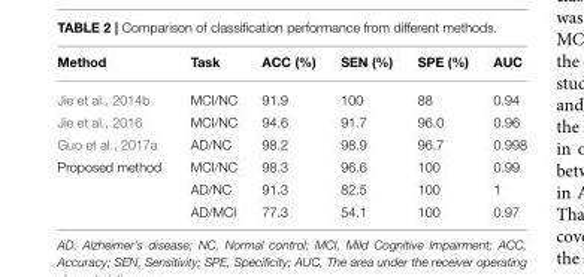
<table><thead><tr><td>Method</td><td>Task</td><td>ACC (%)</td><td>SEN (%)</td><td>SPE (%)</td><td>AUC</td></tr></thead><tbody><tr><td>Jie et al., 2014b</td><td>MCI/NC</td><td>91.9</td><td>100</td><td>88</td><td>0.94</td></tr><tr><td>Jie et al., 2016</td><td>MCI/NC</td><td>94.6</td><td>91.7</td><td>96.0</td><td>0.96</td></tr><tr><td>Guo et al., 2017a</td><td>AD/NC</td><td>98.2</td><td>98.9</td><td>96.7</td><td>0.998</td></tr><tr><td rowspan="3">Proposed method</td><td>MCI/NC</td><td>98.3</td><td>96.6</td><td>100</td><td>0.99</td></tr><tr><td>AD/NC</td><td>91.3</td><td>82.5</td><td>100</td><td>1</td></tr><tr><td>AD/MCI</td><td>77.3</td><td>54.1</td><td>100</td><td>0.97</td></tr></tbody></table>